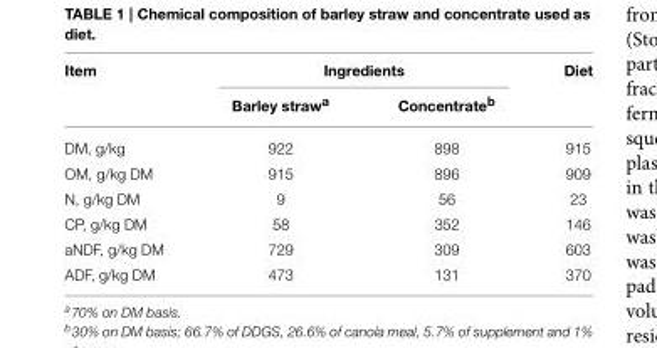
<table><thead><tr><td rowspan="2">Item</td><td colspan="2">Ingredients</td><td rowspan="2">Diet</td></tr><tr><td>Barley straw<sup>a</sup></td><td>Concentrate<sup>b</sup></td></tr></thead><tbody><tr><td>DM, g/kg</td><td>922</td><td>898</td><td>915</td></tr><tr><td>OM, g/kg DM</td><td>915</td><td>896</td><td>909</td></tr><tr><td>N, g/kg DM</td><td>9</td><td>56</td><td>23</td></tr><tr><td>CP, g/kg DM</td><td>58</td><td>352</td><td>146</td></tr><tr><td>aNDF, g/kg DM</td><td>729</td><td>309</td><td>603</td></tr><tr><td>ADF, g/kg DM</td><td>473</td><td>131</td><td>370</td></tr></tbody></table>